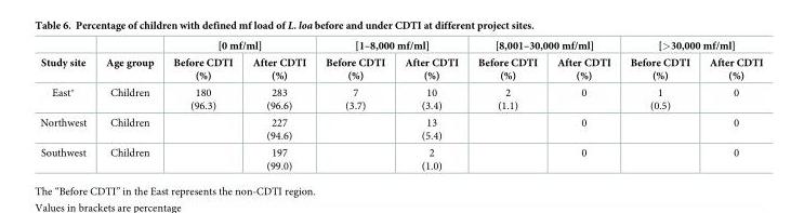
<table><thead><tr><td rowspan="2">Study site</td><td rowspan="2">Age group</td><td colspan="2">[0 mf/ml]</td><td colspan="2">[1–8,000 mf/ml]</td><td colspan="2">[8,001–30,000 mf/ml]</td><td colspan="2">[&gt;30,000 mf/ml]</td></tr><tr><td>Before CDTI (%)</td><td>After CDTI (%)</td><td>Before CDTI (%)</td><td>After CDTI (%)</td><td>Before CDTI (%)</td><td>After CDTI (%)</td><td>Before CDTI (%)</td><td>After CDTI (%)</td></tr></thead><tbody><tr><td>East*</td><td>Children</td><td>180 (96.3)</td><td>283 (96.6)</td><td>7 (3.7)</td><td>10 (3.4)</td><td>2 (1.1)</td><td>0</td><td>1 (0.5)</td><td>0</td></tr><tr><td>Northwest</td><td>Children</td><td></td><td>227 (94.6)</td><td></td><td>13 (5.4)</td><td></td><td>0</td><td></td><td>0</td></tr><tr><td>Southwest</td><td>Children</td><td></td><td>197 (99.0)</td><td></td><td>2 (1.0)</td><td></td><td>0</td><td></td><td>0</td></tr></tbody></table>